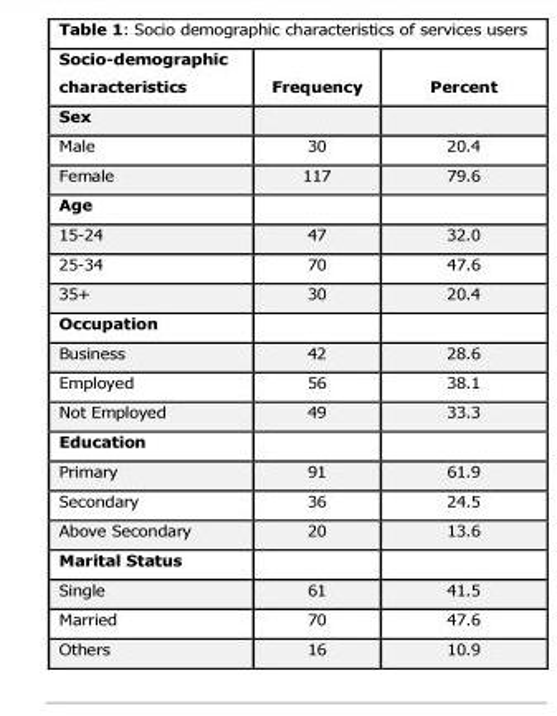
<table><thead><tr><td>Socio-demographic characteristics</td><td>Frequency</td><td>Percent</td></tr></thead><tbody><tr><td colspan="3">Sex</td></tr><tr><td>Male</td><td>30</td><td>20.4</td></tr><tr><td>Female</td><td>117</td><td>79.6</td></tr><tr><td colspan="3">Age</td></tr><tr><td>15-24</td><td>47</td><td>32.0</td></tr><tr><td>25-34</td><td>70</td><td>47.6</td></tr><tr><td>35+</td><td>30</td><td>20.4</td></tr><tr><td colspan="3">Occupation</td></tr><tr><td>Business</td><td>42</td><td>28.6</td></tr><tr><td>Employed</td><td>56</td><td>38.1</td></tr><tr><td>Not Employed</td><td>49</td><td>33.3</td></tr><tr><td colspan="3">Education</td></tr><tr><td>Primary</td><td>91</td><td>61.9</td></tr><tr><td>Secondary</td><td>36</td><td>24.5</td></tr><tr><td>Above Secondary</td><td>20</td><td>13.6</td></tr><tr><td colspan="3">Marital Status</td></tr><tr><td>Single</td><td>61</td><td>41.5</td></tr><tr><td>Married</td><td>70</td><td>47.6</td></tr><tr><td>Others</td><td>16</td><td>10.9</td></tr></tbody></table>